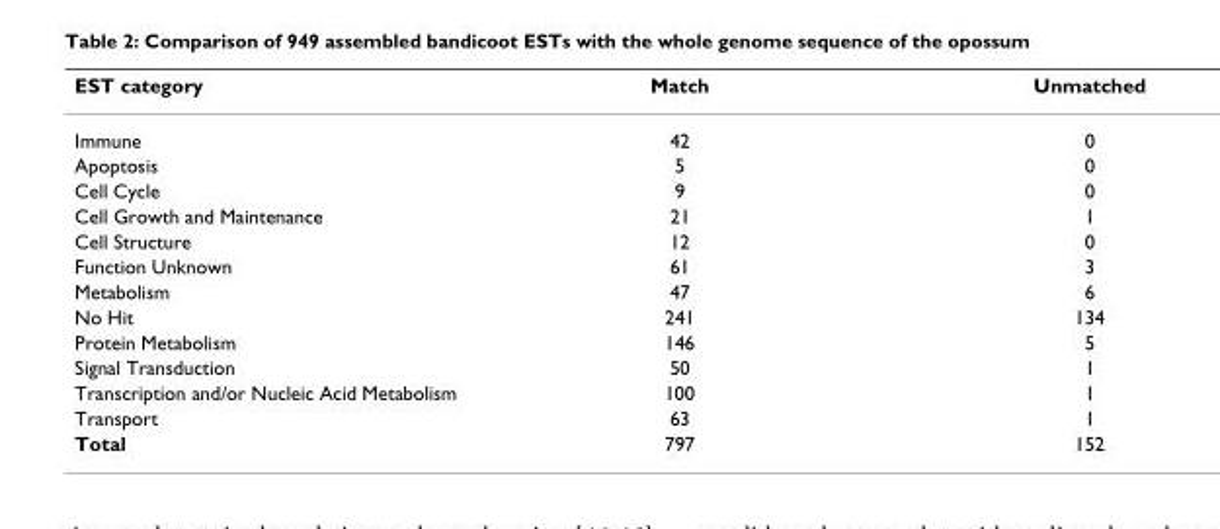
<table><thead><tr><td>EST category</td><td>Match</td><td>Unmatched</td></tr></thead><tbody><tr><td>Immune</td><td>42</td><td>0</td></tr><tr><td>Apoptosis</td><td>5</td><td>0</td></tr><tr><td>Cell Cycle</td><td>9</td><td>0</td></tr><tr><td>Cell Growth and Maintenance</td><td>21</td><td>1</td></tr><tr><td>Cell Structure</td><td>12</td><td>0</td></tr><tr><td>Function Unknown</td><td>61</td><td>3</td></tr><tr><td>Metabolism</td><td>47</td><td>6</td></tr><tr><td>No Hit</td><td>241</td><td>134</td></tr><tr><td>Protein Metabolism</td><td>146</td><td>5</td></tr><tr><td>Signal Transduction</td><td>50</td><td>1</td></tr><tr><td>Transcription and/or Nucleic Acid Metabolism</td><td>100</td><td>1</td></tr><tr><td>Transport</td><td>63</td><td>1</td></tr><tr><td>Total</td><td>797</td><td>152</td></tr></tbody></table>